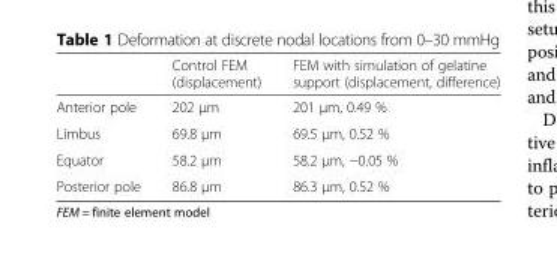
<table><thead><tr><td></td><td>Control FEM (displacement)</td><td>FEM with simulation of gelatine support (displacement, difference)</td></tr></thead><tbody><tr><td>Anterior pole</td><td>202 μm</td><td>201 μm, 0.49 %</td></tr><tr><td>Limbus</td><td>69.8 μm</td><td>69.5 μm, 0.52 %</td></tr><tr><td>Equator</td><td>58.2 μm</td><td>58.2 μm, −0.05 %</td></tr><tr><td>Posterior pole</td><td>86.8 μm</td><td>86.3 μm, 0.52 %</td></tr></tbody></table>